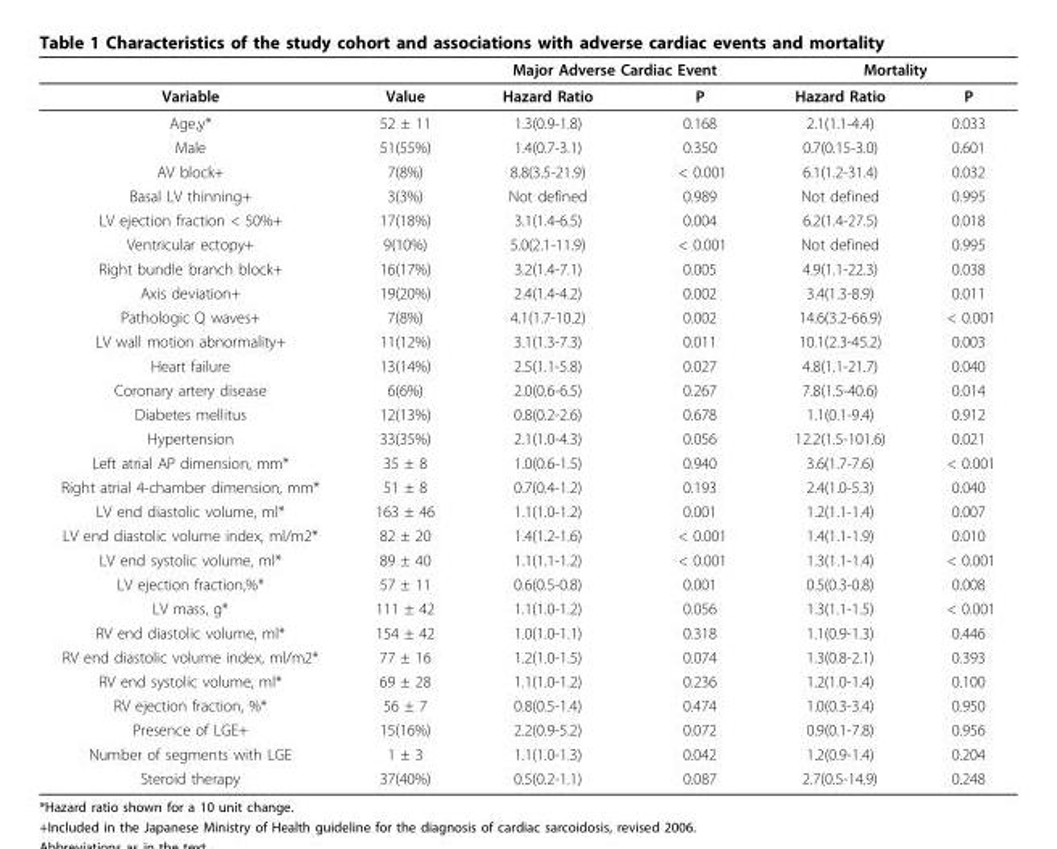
<table><thead><tr><td rowspan="2">Variable</td><td rowspan="2">Value</td><td colspan="2">Major Adverse Cardiac Event</td><td colspan="2">Mortality</td></tr><tr><td>Hazard Ratio</td><td>P</td><td>Hazard Ratio</td><td>P</td></tr></thead><tbody><tr><td>Age,y*</td><td>52 ± 11</td><td>1.3(0.9-1.8)</td><td>0.168</td><td>2.1(1.1-4.4)</td><td>0.033</td></tr><tr><td>Male</td><td>51(55%)</td><td>1.4(0.7-3.1)</td><td>0.350</td><td>0.7(0.15-3.0)</td><td>0.601</td></tr><tr><td>AV block+</td><td>7(8%)</td><td>8.8(3.5-21.9)</td><td>&lt; 0.001</td><td>6.1(1.2-31.4)</td><td>0.032</td></tr><tr><td>Basal LV thinning+</td><td>3(3%)</td><td>Not defined</td><td>0.989</td><td>Not defined</td><td>0.995</td></tr><tr><td>LV ejection fraction &lt; 50%+</td><td>17(18%)</td><td>3.1(1.4-6.5)</td><td>0.004</td><td>6.2(1.4-27.5)</td><td>0.018</td></tr><tr><td>Ventricular ectopy+</td><td>9(10%)</td><td>5.0(2.1-11.9)</td><td>&lt; 0.001</td><td>Not defined</td><td>0.995</td></tr><tr><td>Right bundle branch block+</td><td>16(17%)</td><td>3.2(1.4-7.1)</td><td>0.005</td><td>4.9(1.1-22.3)</td><td>0.038</td></tr><tr><td>Axis deviation+</td><td>19(20%)</td><td>2.4(1.4-4.2)</td><td>0.002</td><td>3.4(1.3-8.9)</td><td>0.011</td></tr><tr><td>Pathologic Q waves+</td><td>7(8%)</td><td>4.1(1.7-10.2)</td><td>0.002</td><td>14.6(3.2-66.9)</td><td>&lt; 0.001</td></tr><tr><td>LV wall motion abnormality+</td><td>11(12%)</td><td>3.1(1.3-7.3)</td><td>0.011</td><td>10.1(2.3-45.2)</td><td>0.003</td></tr><tr><td>Heart failure</td><td>13(14%)</td><td>2.5(1.1-5.8)</td><td>0.027</td><td>4.8(1.1-21.7)</td><td>0.040</td></tr><tr><td>Coronary artery disease</td><td>6(6%)</td><td>2.0(0.6-6.5)</td><td>0.267</td><td>7.8(1.5-40.6)</td><td>0.014</td></tr><tr><td>Diabetes mellitus</td><td>12(13%)</td><td>0.8(0.2-2.6)</td><td>0.678</td><td>1.1(0.1-9.4)</td><td>0.912</td></tr><tr><td>Hypertension</td><td>33(35%)</td><td>2.1(1.0-4.3)</td><td>0.056</td><td>12.2(1.5-101.6)</td><td>0.021</td></tr><tr><td>Left atrial AP dimension, mm*</td><td>35 ± 8</td><td>1.0(0.6-1.5)</td><td>0.940</td><td>3.6(1.7-7.6)</td><td>&lt; 0.001</td></tr><tr><td>Right atrial 4-chamber dimension, mm*</td><td>51 ± 8</td><td>0.7(0.4-1.2)</td><td>0.193</td><td>2.4(1.0-5.3)</td><td>0.040</td></tr><tr><td>LV end diastolic volume, ml*</td><td>163 ± 46</td><td>1.1(1.0-1.2)</td><td>0.001</td><td>1.2(1.1-1.4)</td><td>0.007</td></tr><tr><td>LV end diastolic volume index, ml/m2*</td><td>82 ± 20</td><td>1.4(1.2-1.6)</td><td>&lt; 0.001</td><td>1.4(1.1-1.9)</td><td>0.010</td></tr><tr><td>LV end systolic volume, ml*</td><td>89 ± 40</td><td>1.1(1.1-1.2)</td><td>&lt; 0.001</td><td>1.3(1.1-1.4)</td><td>&lt; 0.001</td></tr><tr><td>LV ejection fraction,%*</td><td>57 ± 11</td><td>0.6(0.5-0.8)</td><td>0.001</td><td>0.5(0.3-0.8)</td><td>0.008</td></tr><tr><td>LV mass, g*</td><td>111 ± 42</td><td>1.1(1.0-1.2)</td><td>0.056</td><td>1.3(1.1-1.5)</td><td>&lt; 0.001</td></tr><tr><td>RV end diastolic volume, ml*</td><td>154 ± 42</td><td>1.0(1.0-1.1)</td><td>0.318</td><td>1.1(0.9-1.3)</td><td>0.446</td></tr><tr><td>RV end diastolic volume index, ml/m2*</td><td>77 ± 16</td><td>1.2(1.0-1.5)</td><td>0.074</td><td>1.3(0.8-2.1)</td><td>0.393</td></tr><tr><td>RV end systolic volume, ml*</td><td>69 ± 28</td><td>1.1(1.0-1.2)</td><td>0.236</td><td>1.2(1.0-1.4)</td><td>0.100</td></tr><tr><td>RV ejection fraction, %*</td><td>56 ± 7</td><td>0.8(0.5-1.4)</td><td>0.474</td><td>1.0(0.3-3.4)</td><td>0.950</td></tr><tr><td>Presence of LGE+</td><td>15(16%)</td><td>2.2(0.9-5.2)</td><td>0.072</td><td>0.9(0.1-7.8)</td><td>0.956</td></tr><tr><td>Number of segments with LGE</td><td>1 ± 3</td><td>1.1(1.0-1.3)</td><td>0.042</td><td>1.2(0.9-1.4)</td><td>0.204</td></tr><tr><td>Steroid therapy</td><td>37(40%)</td><td>0.5(0.2-1.1)</td><td>0.087</td><td>2.7(0.5-14.9)</td><td>0.248</td></tr></tbody></table>